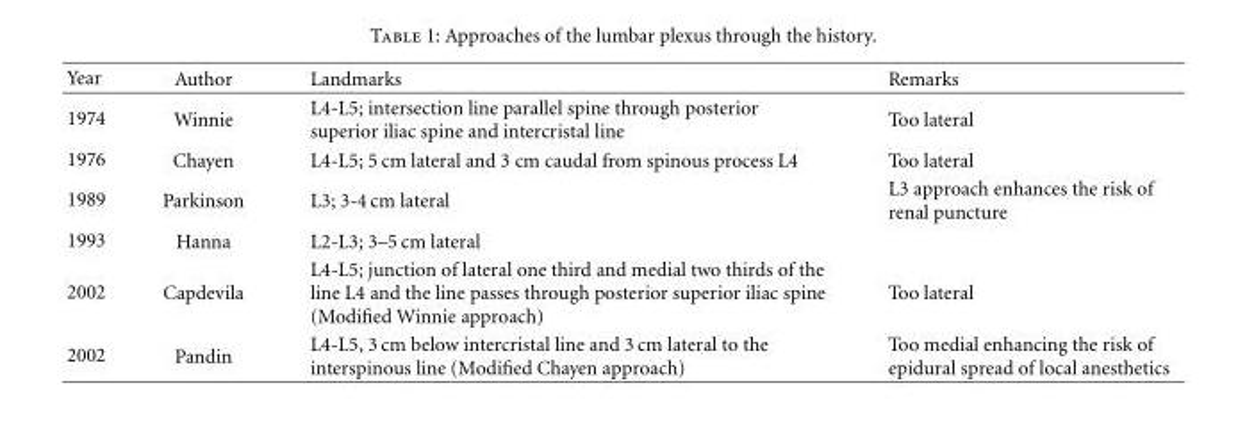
<table><thead><tr><td>Year</td><td>Author</td><td>Landmarks</td><td>Remarks</td></tr></thead><tbody><tr><td>1974</td><td>Winnie</td><td>L4-L5; intersection line parallel spine through posterior superior iliac spine and intercristal line</td><td>Too lateral</td></tr><tr><td>1976</td><td>Chayen</td><td>L4-L5; 5 cm lateral and 3 cm caudal from spinous process L4</td><td>Too lateral</td></tr><tr><td>1989</td><td>Parkinson</td><td>L3; 3-4 cm lateral</td><td>L3 approach enhances the risk of renal puncture</td></tr><tr><td>1993</td><td>Hanna</td><td>L2-L3; 3–5 cm lateral</td><td></td></tr><tr><td>2002</td><td>Capdevila</td><td>L4-L5; junction of lateral one third and medial two thirds of the line L4 and the line passes through posterior superior iliac spine (Modified Winnie approach)</td><td>Too lateral</td></tr><tr><td>2002</td><td>Pandin</td><td>L4-L5, 3 cm below intercristal line and 3 cm lateral to the interspinous line (Modified Chayen approach)</td><td>Too medial enhancing the risk of epidural spread of local anesthetics</td></tr></tbody></table>